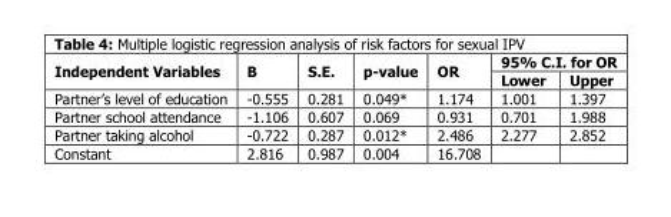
<table><thead><tr><td rowspan="2">Independent Variables</td><td rowspan="2">B</td><td rowspan="2">S.E.</td><td rowspan="2">p-value</td><td rowspan="2">OR</td><td colspan="2">95% C.I. for OR</td></tr><tr><td>Lower</td><td>Upper</td></tr></thead><tbody><tr><td>Partner’s level of education</td><td>-0.555</td><td>0.281</td><td>0.049*</td><td>1.174</td><td>1.001</td><td>1.397</td></tr><tr><td>Partner school attendance</td><td>-1.106</td><td>0.607</td><td>0.069</td><td>0.931</td><td>0.701</td><td>1.988</td></tr><tr><td>Partner taking alcohol</td><td>-0.722</td><td>0.287</td><td>0.012*</td><td>2.486</td><td>2.277</td><td>2.852</td></tr><tr><td>Constant</td><td>2.816</td><td>0.987</td><td>0.004</td><td>16.708</td><td></td><td></td></tr></tbody></table>